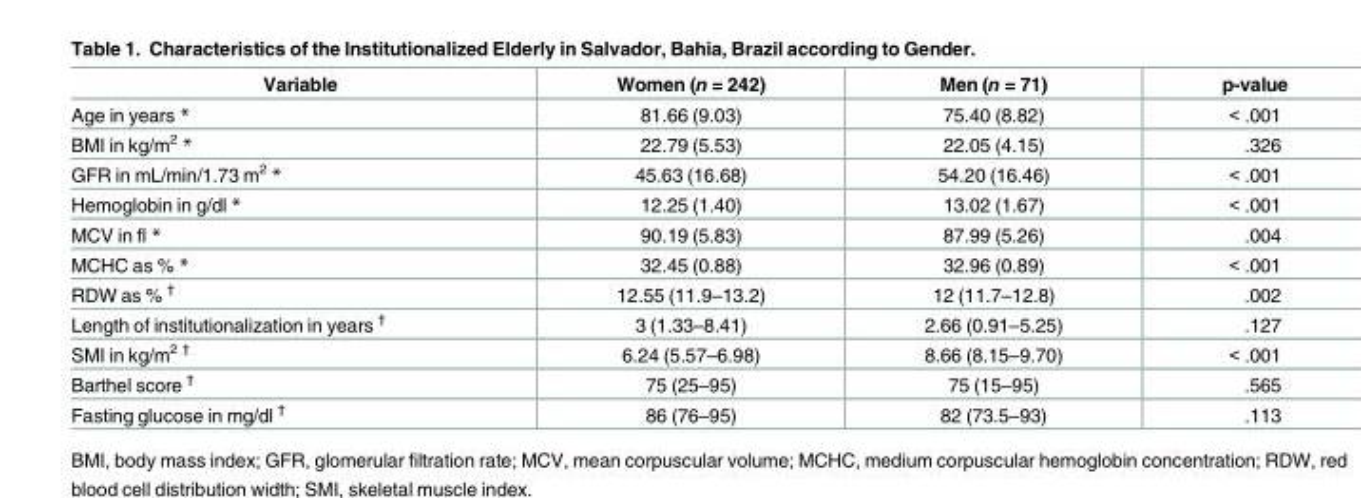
<table><thead><tr><td>Variable</td><td>Women (n = 242)</td><td>Men (n = 71)</td><td>p-value</td></tr></thead><tbody><tr><td>Age in years *</td><td>81.66 (9.03)</td><td>75.40 (8.82)</td><td>&lt; .001</td></tr><tr><td>BMI in kg/m<sup>2</sup> *</td><td>22.79 (5.53)</td><td>22.05 (4.15)</td><td>.326</td></tr><tr><td>GFR in mL/min/1.73 m<sup>2</sup> *</td><td>45.63 (16.68)</td><td>54.20 (16.46)</td><td>&lt; .001</td></tr><tr><td>Hemoglobin in g/dl *</td><td>12.25 (1.40)</td><td>13.02 (1.67)</td><td>&lt; .001</td></tr><tr><td>MCV in fl *</td><td>90.19 (5.83)</td><td>87.99 (5.26)</td><td>.004</td></tr><tr><td>MCHC as % *</td><td>32.45 (0.88)</td><td>32.96 (0.89)</td><td>&lt; .001</td></tr><tr><td>RDW as % <sup>†</sup></td><td>12.55 (11.9–13.2)</td><td>12 (11.7–12.8)</td><td>.002</td></tr><tr><td>Length of institutionalization in years <sup>†</sup></td><td>3 (1.33–8.41)</td><td>2.66 (0.91–5.25)</td><td>.127</td></tr><tr><td>SMI in kg/m<sup>2 †</sup></td><td>6.24 (5.57–6.98)</td><td>8.66 (8.15–9.70)</td><td>&lt; .001</td></tr><tr><td>Barthel score <sup>†</sup></td><td>75 (25–95)</td><td>75 (15–95)</td><td>.565</td></tr><tr><td>Fasting glucose in mg/dl <sup>†</sup></td><td>86 (76–95)</td><td>82 (73.5–93)</td><td>.113</td></tr></tbody></table>